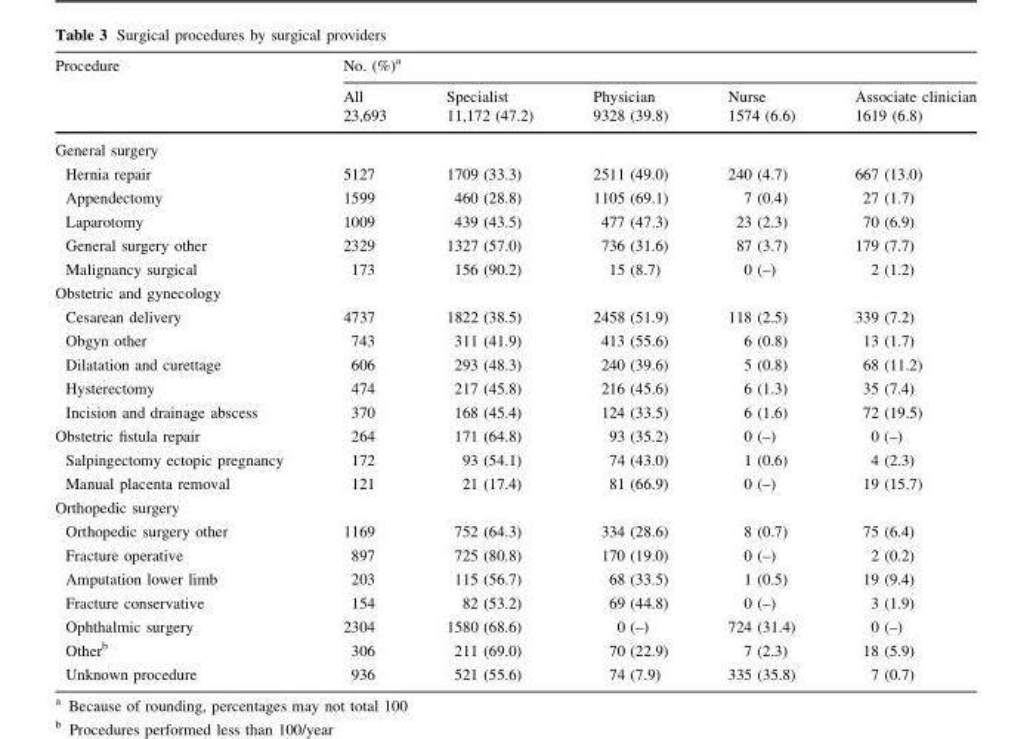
<table><thead><tr><td rowspan="3">Procedure</td><td colspan="5">No. (%)<sup>a</sup></td></tr><tr><td rowspan="2">All 23,693</td><td rowspan="2">Specialist 11,172 (47.2)</td><td rowspan="2">Physician 9328 (39.8)</td><td rowspan="2">Nurse 1574 (6.6)</td><td rowspan="2">Associate clinician 1619 (6.8)</td></tr><tr></tr></thead><tbody><tr><td colspan="6">General surgery</td></tr><tr><td>Hernia repair</td><td>5127</td><td>1709 (33.3)</td><td>2511 (49.0)</td><td>240 (4.7)</td><td>667 (13.0)</td></tr><tr><td>Appendectomy</td><td>1599</td><td>460 (28.8)</td><td>1105 (69.1)</td><td>7 (0.4)</td><td>27 (1.7)</td></tr><tr><td>Laparotomy</td><td>1009</td><td>439 (43.5)</td><td>477 (47.3)</td><td>23 (2.3)</td><td>70 (6.9)</td></tr><tr><td>General surgery other</td><td>2329</td><td>1327 (57.0)</td><td>736 (31.6)</td><td>87 (3.7)</td><td>179 (7.7)</td></tr><tr><td>Malignancy surgical</td><td>173</td><td>156 (90.2)</td><td>15 (8.7)</td><td>0 (–)</td><td>2 (1.2)</td></tr><tr><td colspan="6">Obstetric and gynecology</td></tr><tr><td>Cesarean delivery</td><td>4737</td><td>1822 (38.5)</td><td>2458 (51.9)</td><td>118 (2.5)</td><td>339 (7.2)</td></tr><tr><td>Obgyn other</td><td>743</td><td>311 (41.9)</td><td>413 (55.6)</td><td>6 (0.8)</td><td>13 (1.7)</td></tr><tr><td>Dilatation and curettage</td><td>606</td><td>293 (48.3)</td><td>240 (39.6)</td><td>5 (0.8)</td><td>68 (11.2)</td></tr><tr><td>Hysterectomy</td><td>474</td><td>217 (45.8)</td><td>216 (45.6)</td><td>6 (1.3)</td><td>35 (7.4)</td></tr><tr><td>Incision and drainage abscess</td><td>370</td><td>168 (45.4)</td><td>124 (33.5)</td><td>6 (1.6)</td><td>72 (19.5)</td></tr><tr><td>Obstetric fistula repair</td><td>264</td><td>171 (64.8)</td><td>93 (35.2)</td><td>0 (–)</td><td>0 (–)</td></tr><tr><td>Salpingectomy ectopic pregnancy</td><td>172</td><td>93 (54.1)</td><td>74 (43.0)</td><td>1 (0.6)</td><td>4 (2.3)</td></tr><tr><td>Manual placenta removal</td><td>121</td><td>21 (17.4)</td><td>81 (66.9)</td><td>0 (–)</td><td>19 (15.7)</td></tr><tr><td colspan="6">Orthopedic surgery</td></tr><tr><td>Orthopedic surgery other</td><td>1169</td><td>752 (64.3)</td><td>334 (28.6)</td><td>8 (0.7)</td><td>75 (6.4)</td></tr><tr><td>Fracture operative</td><td>897</td><td>725 (80.8)</td><td>170 (19.0)</td><td>0 (–)</td><td>2 (0.2)</td></tr><tr><td>Amputation lower limb</td><td>203</td><td>115 (56.7)</td><td>68 (33.5)</td><td>1 (0.5)</td><td>19 (9.4)</td></tr><tr><td>Fracture conservative</td><td>154</td><td>82 (53.2)</td><td>69 (44.8)</td><td>0 (–)</td><td>3 (1.9)</td></tr><tr><td>Ophthalmic surgery</td><td>2304</td><td>1580 (68.6)</td><td>0 (–)</td><td>724 (31.4)</td><td>0 (–)</td></tr><tr><td>Other<sup>b</sup></td><td>306</td><td>211 (69.0)</td><td>70 (22.9)</td><td>7 (2.3)</td><td>18 (5.9)</td></tr><tr><td>Unknown procedure</td><td>936</td><td>521 (55.6)</td><td>74 (7.9)</td><td>335 (35.8)</td><td>7 (0.7)</td></tr></tbody></table>